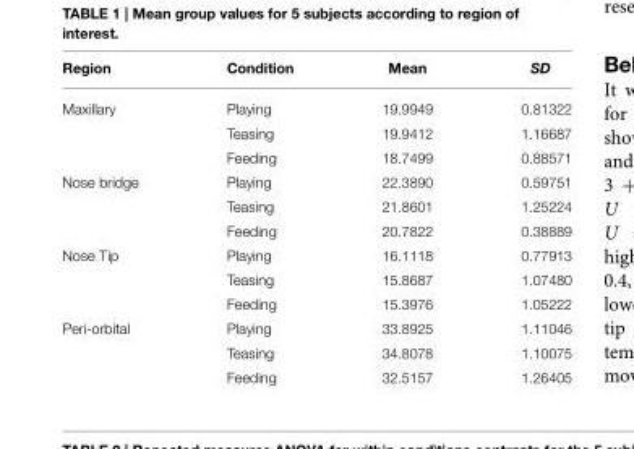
<table><thead><tr><td>Region</td><td>Condition</td><td>Mean</td><td>SD</td></tr></thead><tbody><tr><td rowspan="3">Maxillary</td><td>Playing</td><td>19.9949</td><td>0.81322</td></tr><tr><td>Teasing</td><td>19.9412</td><td>1.16687</td></tr><tr><td>Feeding</td><td>18.7499</td><td>0.88571</td></tr><tr><td rowspan="3">Nose bridge</td><td>Playing</td><td>22.3890</td><td>0.59751</td></tr><tr><td>Teasing</td><td>21.8601</td><td>1.25224</td></tr><tr><td>Feeding</td><td>20.7822</td><td>0.38889</td></tr><tr><td rowspan="3">Nose Tip</td><td>Playing</td><td>16.1118</td><td>0.77913</td></tr><tr><td>Teasing</td><td>15.8687</td><td>1.07480</td></tr><tr><td>Feeding</td><td>15.3976</td><td>1.05222</td></tr><tr><td rowspan="3">Peri-orbital</td><td>Playing</td><td>33.8925</td><td>1.11046</td></tr><tr><td>Teasing</td><td>34.8078</td><td>1.10075</td></tr><tr><td>Feeding</td><td>32.5157</td><td>1.26405</td></tr></tbody></table>